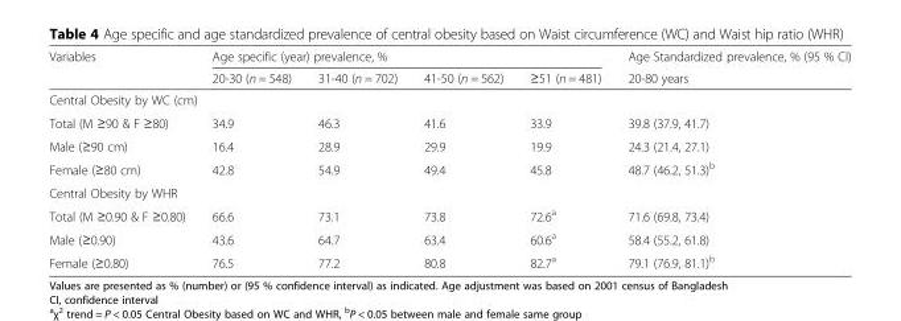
<table><thead><tr><td rowspan="2">Variables</td><td colspan="4">Age specific (year) prevalence, %</td><td rowspan="2">Age Standardized prevalence, % (95 % CI) 20-80 years</td></tr><tr><td>20-30 (n = 548)</td><td>31-40 (n = 702)</td><td>41-50 (n = 562)</td><td>≥51 (n = 481)</td></tr></thead><tbody><tr><td colspan="6">Central Obesity by WC (cm)</td></tr><tr><td>Total (M ≥90 &amp; F ≥80)</td><td>34.9</td><td>46.3</td><td>41.6</td><td>33.9</td><td>39.8 (37.9, 41.7)</td></tr><tr><td>Male (≥90 cm)</td><td>16.4</td><td>28.9</td><td>29.9</td><td>19.9</td><td>24.3 (21.4, 27.1)</td></tr><tr><td>Female (≥80 cm)</td><td>42.8</td><td>54.9</td><td>49.4</td><td>45.8</td><td>48.7 (46.2, 51.3)<sup>b</sup></td></tr><tr><td colspan="6">Central Obesity by WHR</td></tr><tr><td>Total (M ≥0.90 &amp; F ≥0.80)</td><td>66.6</td><td>73.1</td><td>73.8</td><td>72.6<sup>a</sup></td><td>71.6 (69.8, 73.4)</td></tr><tr><td>Male (≥0.90)</td><td>43.6</td><td>64.7</td><td>63.4</td><td>60.6<sup>a</sup></td><td>58.4 (55.2, 61.8)</td></tr><tr><td>Female (≥0.80)</td><td>76.5</td><td>77.2</td><td>80.8</td><td>82.7<sup>a</sup></td><td>79.1 (76.9, 81.1)<sup>b</sup></td></tr></tbody></table>